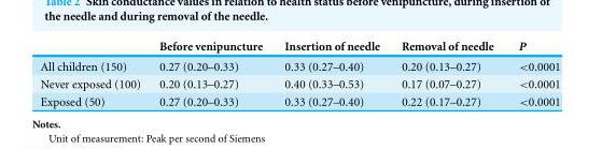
<table><thead><tr><td></td><td>Before venipuncture</td><td>Insertion of needle</td><td>Removal of needle</td><td>P</td></tr></thead><tbody><tr><td>All children (150)</td><td>0.27 (0.20–0.33)</td><td>0.33 (0.27–0.40)</td><td>0.20 (0.13–0.27)</td><td>&lt;0.0001</td></tr><tr><td>Never exposed (100)</td><td>0.20 (0.13–0.27)</td><td>0.40 (0.33–0.53)</td><td>0.17 (0.07–0.27)</td><td>&lt;0.0001</td></tr><tr><td>Exposed (50)</td><td>0.27 (0.20–0.33)</td><td>0.33 (0.27–0.40)</td><td>0.22 (0.17–0.27)</td><td>&lt;0.0001</td></tr></tbody></table>